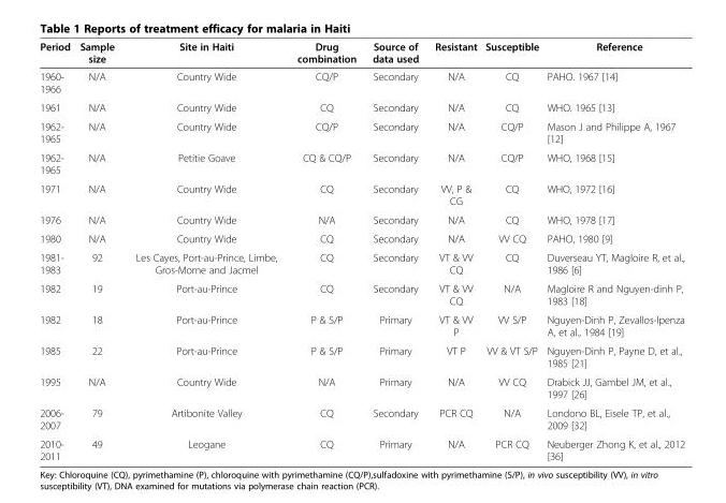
<table><thead><tr><td>Period</td><td>Sample size</td><td>Site in Haiti</td><td>Drug combination</td><td>Source of data used</td><td>Resistant</td><td>Susceptible</td><td>Reference</td></tr></thead><tbody><tr><td>1960- 1966</td><td>N/A</td><td>Country Wide</td><td>CQ/P</td><td>Secondary</td><td>N/A</td><td>CQ</td><td>PAHO. 1967 [14]</td></tr><tr><td>1961</td><td>N/A</td><td>Country Wide</td><td>CQ</td><td>Secondary</td><td>N/A</td><td>CQ</td><td>WHO. 1965 [13]</td></tr><tr><td>1962- 1965</td><td>N/A</td><td>Country Wide</td><td>CQ/P</td><td>Secondary</td><td>N/A</td><td>CQ/P</td><td>Mason J and Philippe A, 1967 [12]</td></tr><tr><td>1962- 1965</td><td>N/A</td><td>Petitie Goave</td><td>CQ &amp; CQ/P</td><td>Secondary</td><td>N/A</td><td>CQ/P</td><td>WHO, 1968 [15]</td></tr><tr><td>1971</td><td>N/A</td><td>Country Wide</td><td>CQ</td><td>Secondary</td><td>VV, P &amp; CG</td><td>CQ</td><td>WHO, 1972 [16]</td></tr><tr><td>1976</td><td>N/A</td><td>Country Wide</td><td>N/A</td><td>Secondary</td><td>N/A</td><td>CQ</td><td>WHO, 1978 [17]</td></tr><tr><td>1980</td><td>N/A</td><td>Country Wide</td><td>CQ</td><td>Secondary</td><td>N/A</td><td>VV CQ</td><td>PAHO, 1980 [9]</td></tr><tr><td>1981- 1983</td><td>92</td><td>Les Cayes, Port-au-Prince, Limbe, Gros-Morne and Jacmel</td><td>CQ</td><td>Secondary</td><td>VT &amp; VV CQ</td><td>CQ</td><td>Duverseau YT, Magloire R, et al., 1986 [6]</td></tr><tr><td>1982</td><td>19</td><td>Port-au-Prince</td><td>CQ</td><td>Secondary</td><td>VT &amp; VV CQ</td><td>N/A</td><td>Magloire R and Nguyen-dinh P, 1983 [18]</td></tr><tr><td>1982</td><td>18</td><td>Port-au-Prince</td><td>P &amp; S/P</td><td>Primary</td><td>VT &amp; VV P</td><td>VV S/P</td><td>Nguyen-Dinh P, Zevallos-Ipenza A, et al., 1984 [19]</td></tr><tr><td>1985</td><td>22</td><td>Port-au-Prince</td><td>P &amp; S/P</td><td>Primary</td><td>VT P</td><td>VV &amp; VT S/P</td><td>Nguyen-Dinh P, Payne D, et al., 1985 [21]</td></tr><tr><td>1995</td><td>N/A</td><td>Country Wide</td><td>N/A</td><td>Primary</td><td>N/A</td><td>VV CQ</td><td>Drabick JJ, Gambel JM, et al., 1997 [26]</td></tr><tr><td>2006- 2007</td><td>79</td><td>Artibonite Valley</td><td>CQ</td><td>Secondary</td><td>PCR CQ</td><td>N/A</td><td>Londono BL, Eisele TP, et al., 2009 [32]</td></tr><tr><td>2010- 2011</td><td>49</td><td>Leogane</td><td>CQ</td><td>Primary</td><td>N/A</td><td>PCR CQ</td><td>Neuberger Zhong K, et al., 2012 [36]</td></tr></tbody></table>